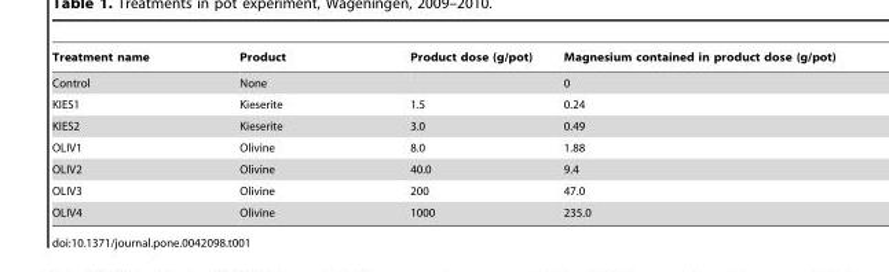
<table><thead><tr><td>Treatment name</td><td>Product</td><td>Product dose (g/pot)</td><td>Magnesium contained in product dose (g/pot)</td></tr></thead><tbody><tr><td>Control</td><td>None</td><td></td><td>0</td></tr><tr><td>KIES1</td><td>Kieserite</td><td>1.5</td><td>0.24</td></tr><tr><td>KIES2</td><td>Kieserite</td><td>3.0</td><td>0.49</td></tr><tr><td>OLIV1</td><td>Olivine</td><td>8.0</td><td>1.88</td></tr><tr><td>OLIV2</td><td>Olivine</td><td>40.0</td><td>9.4</td></tr><tr><td>OLIV3</td><td>Olivine</td><td>200</td><td>47.0</td></tr><tr><td>OLIV4</td><td>Olivine</td><td>1000</td><td>235.0</td></tr></tbody></table>